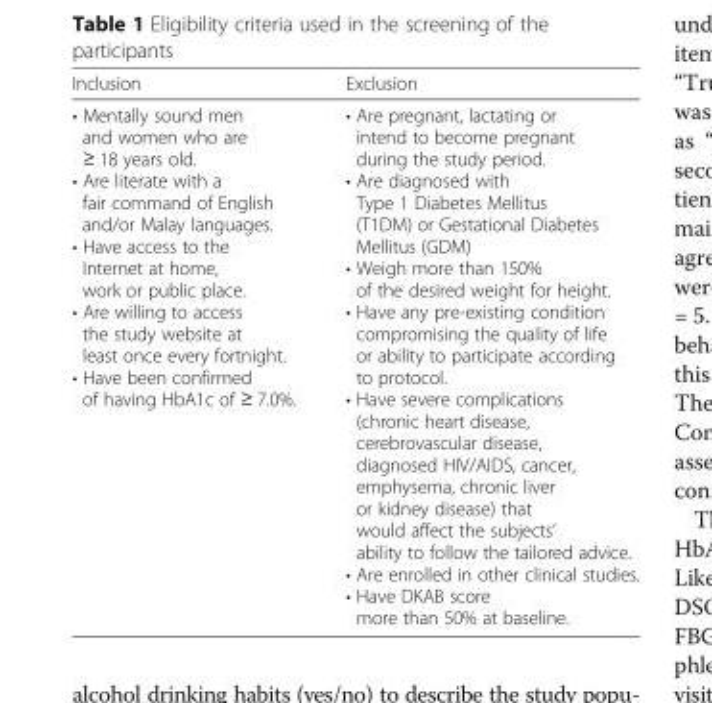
<table><thead><tr><td>Inclusion</td><td>Exclusion</td></tr></thead><tbody><tr><td>• Mentally sound men and women who are ≥ 18 years old. • Are literate with a fair command of English and/or Malay languages. • Have access to the Internet at home, work or public place. • Are willing to access the study website at least once every fortnight. • Have been confirmed of having HbA1c of ≥ 7.0%.</td><td>• Are pregnant, lactating or intend to become pregnant during the study period. • Are diagnosed with Type 1 Diabetes Mellitus (T1DM) or Gestational Diabetes Mellitus (GDM) • Weigh more than 150% of the desired weight for height. • Have any pre-existing condition compromising the quality of life or ability to participate according to protocol. • Have severe complications (chronic heart disease, cerebrovascular disease, diagnosed HIV/AIDS, cancer, emphysema, chronic liver or kidney disease) that would affect the subjects’ ability to follow the tailored advice. • Are enrolled in other clinical studies. • Have DKAB score more than 50% at baseline.</td></tr></tbody></table>